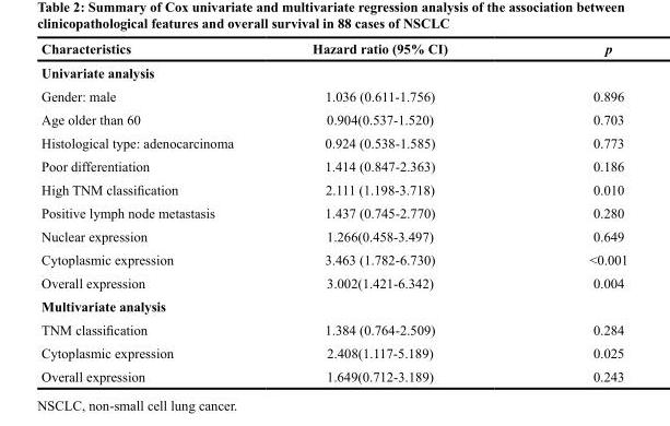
<table><thead><tr><td>Characteristics</td><td>Hazard ratio (95% CI)</td><td>p</td></tr></thead><tbody><tr><td colspan="3">Univariate analysis</td></tr><tr><td>Gender: male</td><td>1.036 (0.611-1.756)</td><td>0.896</td></tr><tr><td>Age older than 60</td><td>0.904(0.537-1.520)</td><td>0.703</td></tr><tr><td>Histological type: adenocarcinoma</td><td>0.924 (0.538-1.585)</td><td>0.773</td></tr><tr><td>Poor differentiation</td><td>1.414 (0.847-2.363)</td><td>0.186</td></tr><tr><td>High TNM classification</td><td>2.111 (1.198-3.718)</td><td>0.010</td></tr><tr><td>Positive lymph node metastasis</td><td>1.437 (0.745-2.770)</td><td>0.280</td></tr><tr><td>Nuclear expression</td><td>1.266(0.458-3.497)</td><td>0.649</td></tr><tr><td>Cytoplasmic expression</td><td>3.463 (1.782-6.730)</td><td>&lt;0.001</td></tr><tr><td>Overall expression</td><td>3.002(1.421-6.342)</td><td>0.004</td></tr><tr><td colspan="3">Multivariate analysis</td></tr><tr><td>TNM classification</td><td>1.384 (0.764-2.509)</td><td>0.284</td></tr><tr><td>Cytoplasmic expression</td><td>2.408(1.117-5.189)</td><td>0.025</td></tr><tr><td>Overall expression</td><td>1.649(0.712-3.189)</td><td>0.243</td></tr></tbody></table>